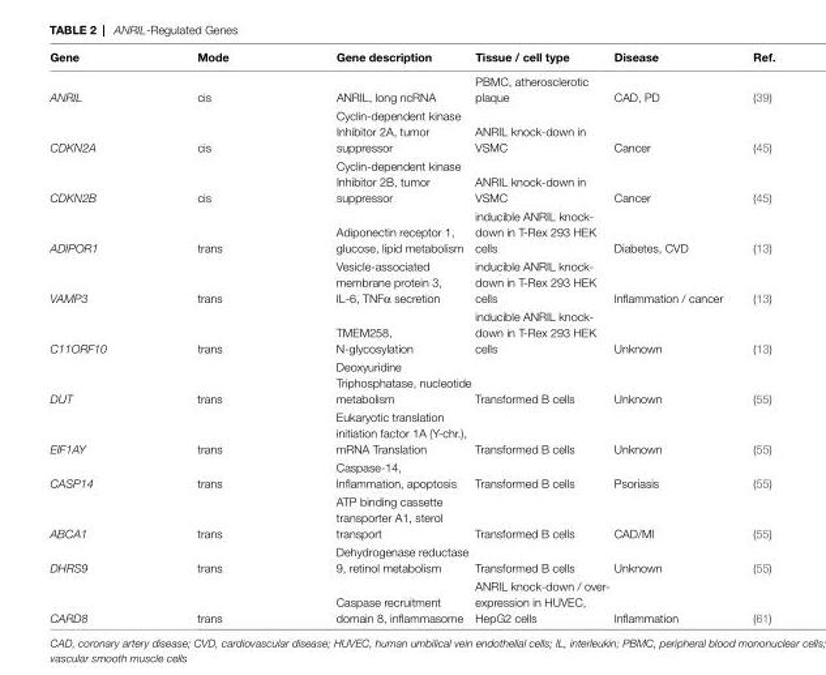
<table><thead><tr><td>gene</td><td>Mode</td><td>gene description</td><td>Tissue / cell type</td><td>Disease</td><td>Ref.</td></tr></thead><tbody><tr><td>ANRIL</td><td>cis</td><td>ANRIL, long ncRNA</td><td>PBMC, atherosclerotic plaque</td><td>CAD, PD</td><td>(39)</td></tr><tr><td>CDKN2A</td><td>cis</td><td>Cyclin-dependent kinase Inhibitor 2A, tumor suppressor</td><td>ANRIL knock-down in VSMC</td><td>Cancer</td><td>(45)</td></tr><tr><td>CDKN2B</td><td>cis</td><td>Cyclin-dependent kinase Inhibitor 2B, tumor suppressor</td><td>ANRIL knock-down in VSMC</td><td>Cancer</td><td>(45)</td></tr><tr><td>ADIPOR1</td><td>trans</td><td>Adiponectin receptor 1, glucose, lipid metabolism</td><td>inducible ANRIL knock- down in T-Rex 293 HEK cells</td><td>Diabetes, CVD</td><td>(13)</td></tr><tr><td>VAMP3</td><td>trans</td><td>Vesicle-associated membrane protein 3, IL-6, TNFα secretion</td><td>inducible ANRIL knock- down in T-Rex 293 HEK cells</td><td>Inflammation / cancer</td><td>(13)</td></tr><tr><td>C11ORF10</td><td>trans</td><td>TMEM258, N-glycosylation</td><td>inducible ANRIL knock- down in T-Rex 293 HEK cells</td><td>Unknown</td><td>(13)</td></tr><tr><td>DUT</td><td>trans</td><td>Deoxyuridine Triphosphatase, nucleotide metabolism</td><td>Transformed B cells</td><td>Unknown</td><td>(55)</td></tr><tr><td>EIF1AY</td><td>trans</td><td>Eukaryotic translation initiation factor 1A (Y-chr.), mRNA Translation</td><td>Transformed B cells</td><td>Unknown</td><td>(55)</td></tr><tr><td>CASP14</td><td>trans</td><td>Caspase-14, Inflammation, apoptosis</td><td>Transformed B cells</td><td>Psoriasis</td><td>(55)</td></tr><tr><td>ABCA1</td><td>trans</td><td>ATP binding cassette transporter A1, sterol transport</td><td>Transformed B cells</td><td>CAD/MI</td><td>(55)</td></tr><tr><td>DHRS9</td><td>trans</td><td>Dehydrogenase reductase 9, retinol metabolism</td><td>Transformed B cells</td><td>Unknown</td><td>(55)</td></tr><tr><td>CARD8</td><td>trans</td><td>Caspase recruitment domain 8, inflammasome</td><td>ANRIL knock-down / over- expression in HUVEC, HepG2 cells</td><td>Inflammation</td><td>(61)</td></tr></tbody></table>